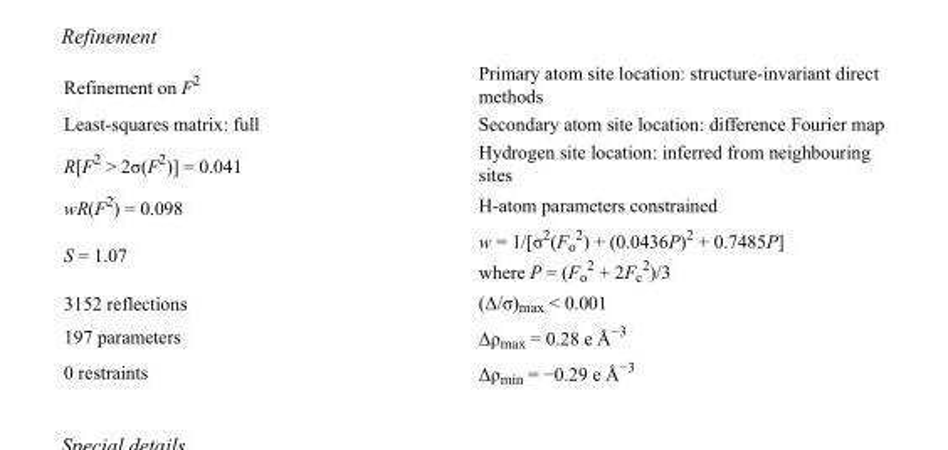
<table><tbody><tr><td>Refinement on F<sup>2</sup></td><td>Primary atom site location: structure-invariant direct methods</td></tr><tr><td>Least-squares matrix: full</td><td>Secondary atom site location: difference Fourier map</td></tr><tr><td>R[F<sup>2</sup> &gt; 2σ(F<sup>2</sup>)] = 0.041</td><td>Hydrogen site location: inferred from neighbouring sites</td></tr><tr><td>wR(F<sup>2</sup>) = 0.098</td><td>H-atom parameters constrained</td></tr><tr><td>S = 1.07</td><td>w = 1/[σ<sup>2</sup>(F<sub>o</sub> <sup>2</sup>) + (0.0436P)<sup>2</sup> + 0.7485P] where P = (F<sub>o</sub> <sup>2</sup> + 2F<sub>c</sub> <sup>2</sup>)/3</td></tr><tr><td>3152 reflections</td><td>(Δ/σ)<sub>max</sub> &lt; 0.001</td></tr><tr><td>197 parameters</td><td>Δρ<sub>max</sub> = 0.28 e Å<sup>−3</sup></td></tr><tr><td>0 restraints</td><td>Δρ<sub>min</sub> = −0.29 e Å<sup>−3</sup></td></tr></tbody></table>